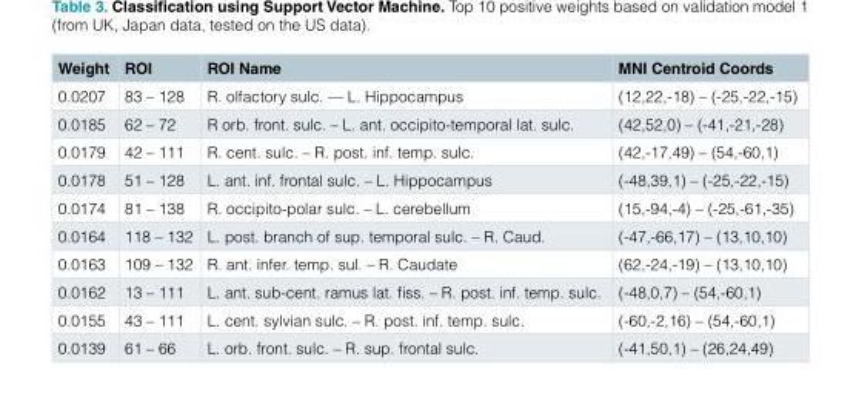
<table><thead><tr><td>Weight</td><td>ROI</td><td>ROI Name</td><td>MNI Centroid Coords</td></tr></thead><tbody><tr><td>0.0207</td><td>83 – 128</td><td>R. olfactory sulc. — L. Hippocampus</td><td>(12,22,-18) – (-25,-22,-15)</td></tr><tr><td>0.0185</td><td>62 – 72</td><td>R orb. front. sulc. – L. ant. occipito-temporal lat. sulc.</td><td>(42,52,0) – (-41,-21,-28)</td></tr><tr><td>0.0179</td><td>42 – 111</td><td>R. cent. sulc. – R. post. inf. temp. sulc.</td><td>(42,-17,49) – (54,-60,1)</td></tr><tr><td>0.0178</td><td>51 – 128</td><td>L. ant. inf. frontal sulc. – L. Hippocampus</td><td>(-48,39,1) – (-25,-22,-15)</td></tr><tr><td>0.0174</td><td>81 – 138</td><td>R. occipito-polar sulc. – L. cerebellum</td><td>(15,-94,-4) – (-25,-61,-35)</td></tr><tr><td>0.0164</td><td>118 – 132</td><td>L. post. branch of sup. temporal sulc. – R. Caud.</td><td>(-47,-66,17) – (13,10,10)</td></tr><tr><td>0.0163</td><td>109 – 132</td><td>R. ant. infer. temp. sul. – R. Caudate</td><td>(62,-24,-19) – (13,10,10)</td></tr><tr><td>0.0162</td><td>13 – 111</td><td>L. ant. sub-cent. ramus lat. fiss. – R. post. inf. temp. sulc.</td><td>(-48,0,7) – (54,-60,1)</td></tr><tr><td>0.0155</td><td>43 – 111</td><td>L. cent. sylvian sulc. – R. post. inf. temp. sulc.</td><td>(-60,-2,16) – (54,-60,1)</td></tr><tr><td>0.0139</td><td>61 – 66</td><td>L. orb. front. sulc. – R. sup. frontal sulc.</td><td>(-41,50,1) – (26,24,49)</td></tr></tbody></table>